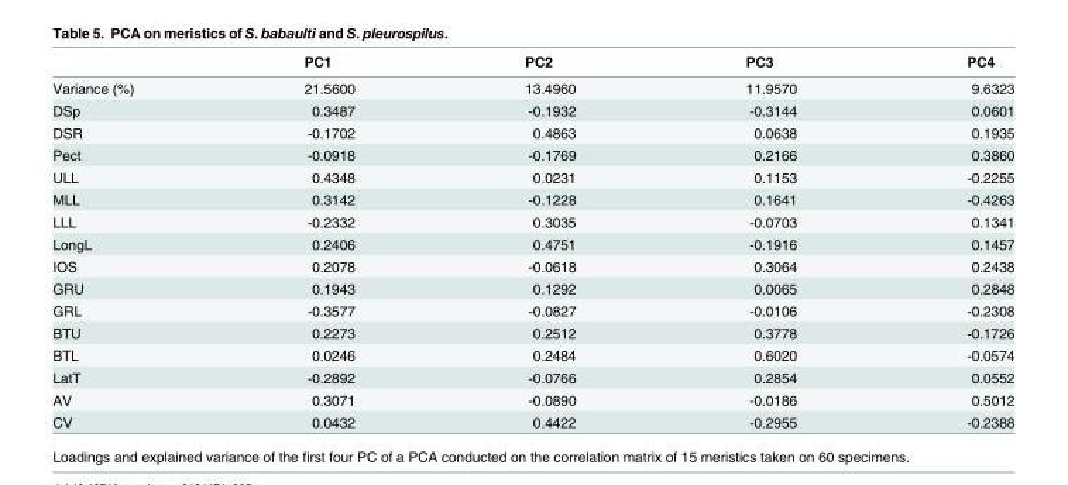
<table><thead><tr><td></td><td>PC1</td><td>PC2</td><td>PC3</td><td>PC4</td></tr></thead><tbody><tr><td>Variance (%)</td><td>21.5600</td><td>13.4960</td><td>11.9570</td><td>9.6323</td></tr><tr><td>DSp</td><td>0.3487</td><td>-0.1932</td><td>-0.3144</td><td>0.0601</td></tr><tr><td>DSR</td><td>-0.1702</td><td>0.4863</td><td>0.0638</td><td>0.1935</td></tr><tr><td>Pect</td><td>-0.0918</td><td>-0.1769</td><td>0.2166</td><td>0.3860</td></tr><tr><td>ULL</td><td>0.4348</td><td>0.0231</td><td>0.1153</td><td>-0.2255</td></tr><tr><td>MLL</td><td>0.3142</td><td>-0.1228</td><td>0.1641</td><td>-0.4263</td></tr><tr><td>LLL</td><td>-0.2332</td><td>0.3035</td><td>-0.0703</td><td>0.1341</td></tr><tr><td>LongL</td><td>0.2406</td><td>0.4751</td><td>-0.1916</td><td>0.1457</td></tr><tr><td>IOS</td><td>0.2078</td><td>-0.0618</td><td>0.3064</td><td>0.2438</td></tr><tr><td>GRU</td><td>0.1943</td><td>0.1292</td><td>0.0065</td><td>0.2848</td></tr><tr><td>GRL</td><td>-0.3577</td><td>-0.0827</td><td>-0.0106</td><td>-0.2308</td></tr><tr><td>BTU</td><td>0.2273</td><td>0.2512</td><td>0.3778</td><td>-0.1726</td></tr><tr><td>BTL</td><td>0.0246</td><td>0.2484</td><td>0.6020</td><td>-0.0574</td></tr><tr><td>LatT</td><td>-0.2892</td><td>-0.0766</td><td>0.2854</td><td>0.0552</td></tr><tr><td>AV</td><td>0.3071</td><td>-0.0890</td><td>-0.0186</td><td>0.5012</td></tr><tr><td>CV</td><td>0.0432</td><td>0.4422</td><td>-0.2955</td><td>-0.2388</td></tr></tbody></table>